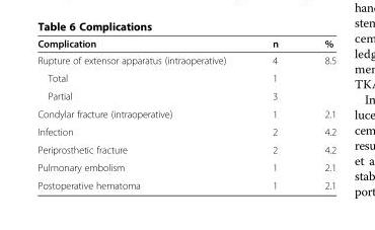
<table><thead><tr><td>Complication</td><td>n</td><td>%</td></tr></thead><tbody><tr><td>Rupture of extensor apparatus (intraoperative)</td><td>4</td><td>8.5</td></tr><tr><td>Total</td><td>1</td><td></td></tr><tr><td>Partial</td><td>3</td><td></td></tr><tr><td>Condylar fracture (intraoperative)</td><td>1</td><td>2.1</td></tr><tr><td>Infection</td><td>2</td><td>4.2</td></tr><tr><td>Periprosthetic fracture</td><td>2</td><td>4.2</td></tr><tr><td>Pulmonary embolism</td><td>1</td><td>2.1</td></tr><tr><td>Postoperative hematoma</td><td>1</td><td>2.1</td></tr></tbody></table>